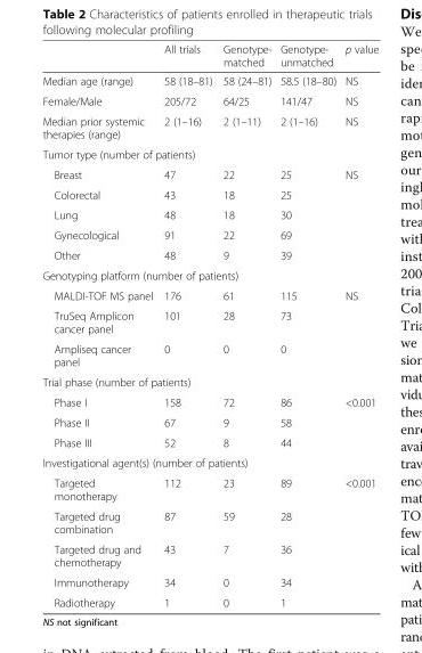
<table><thead><tr><td></td><td>All trials</td><td>Genotype- matched</td><td>Genotype- unmatched</td><td>p value</td></tr></thead><tbody><tr><td>Median age (range)</td><td>58 (18–81)</td><td>58 (24–81)</td><td>58.5 (18–80)</td><td>NS</td></tr><tr><td>Female/Male</td><td>205/72</td><td>64/25</td><td>141/47</td><td>NS</td></tr><tr><td>Median prior systemic therapies (range)</td><td>2 (1–16)</td><td>2 (1–11)</td><td>2 (1–16)</td><td>NS</td></tr><tr><td colspan="5">Tumor type (number of patients)</td></tr><tr><td>Breast</td><td>47</td><td>22</td><td>25</td><td rowspan="5">NS</td></tr><tr><td>Colorectal</td><td>43</td><td>18</td><td>25</td></tr><tr><td>Lung</td><td>48</td><td>18</td><td>30</td></tr><tr><td>Gynecological</td><td>91</td><td>22</td><td>69</td></tr><tr><td>Other</td><td>48</td><td>9</td><td>39</td></tr><tr><td colspan="5">Genotyping platform (number of patients)</td></tr><tr><td>MALDI-TOF MS panel</td><td>176</td><td>61</td><td>115</td><td rowspan="3">NS</td></tr><tr><td>TruSeq Amplicon cancer panel</td><td>101</td><td>28</td><td>73</td></tr><tr><td>Ampliseq cancer panel</td><td>0</td><td>0</td><td>0</td></tr><tr><td colspan="5">Trial phase (number of patients)</td></tr><tr><td>Phase I</td><td>158</td><td>72</td><td>86</td><td rowspan="3">&lt;0.001</td></tr><tr><td>Phase II</td><td>67</td><td>9</td><td>58</td></tr><tr><td>Phase III</td><td>52</td><td>8</td><td>44</td></tr><tr><td colspan="5">Investigational agent(s) (number of patients)</td></tr><tr><td>Targeted monotherapy</td><td>112</td><td>23</td><td>89</td><td rowspan="5">&lt;0.001</td></tr><tr><td>Targeted drug combination</td><td>87</td><td>59</td><td>28</td></tr><tr><td>Targeted drug and chemotherapy</td><td>43</td><td>7</td><td>36</td></tr><tr><td>Immunotherapy</td><td>34</td><td>0</td><td>34</td></tr><tr><td>Radiotherapy</td><td>1</td><td>0</td><td>1</td></tr></tbody></table>